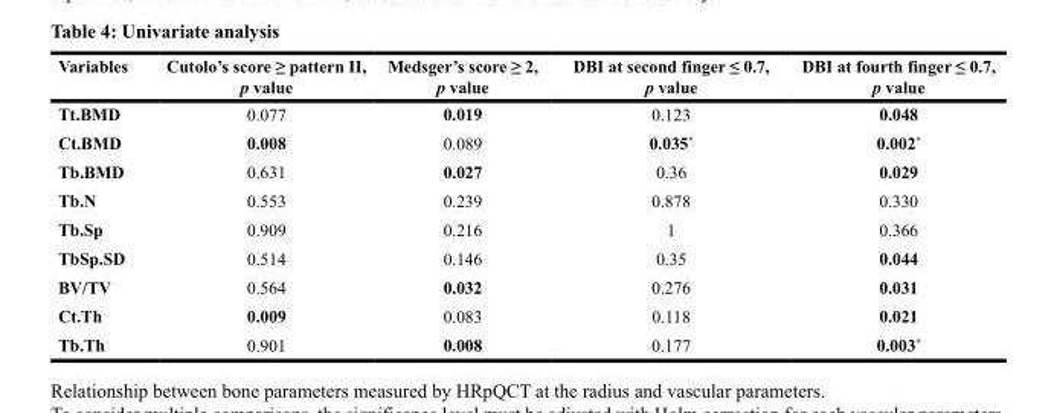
<table><thead><tr><td>Variables</td><td>Cutolo’s score ≥ pattern II, p value</td><td>Medsger’s score ≥ 2, p value</td><td>DBI at second finger ≤ 0.7, p value</td><td>DBI at fourth finger ≤ 0.7, p value</td></tr></thead><tbody><tr><td>Tt.BMD</td><td>0.077</td><td>0.019</td><td>0.123</td><td>0.048</td></tr><tr><td>Ct.BMD</td><td>0.008</td><td>0.089</td><td>0.035*</td><td>0.002*</td></tr><tr><td>Tb.BMD</td><td>0.631</td><td>0.027</td><td>0.36</td><td>0.029</td></tr><tr><td>Tb.N</td><td>0.553</td><td>0.239</td><td>0.878</td><td>0.330</td></tr><tr><td>Tb.Sp</td><td>0.909</td><td>0.216</td><td>1</td><td>0.366</td></tr><tr><td>TbSp.SD</td><td>0.514</td><td>0.146</td><td>0.35</td><td>0.044</td></tr><tr><td>BV/TV</td><td>0.564</td><td>0.032</td><td>0.276</td><td>0.031</td></tr><tr><td>Ct.Th</td><td>0.009</td><td>0.083</td><td>0.118</td><td>0.021</td></tr><tr><td>Tb.Th</td><td>0.901</td><td>0.008</td><td>0.177</td><td>0.003*</td></tr></tbody></table>